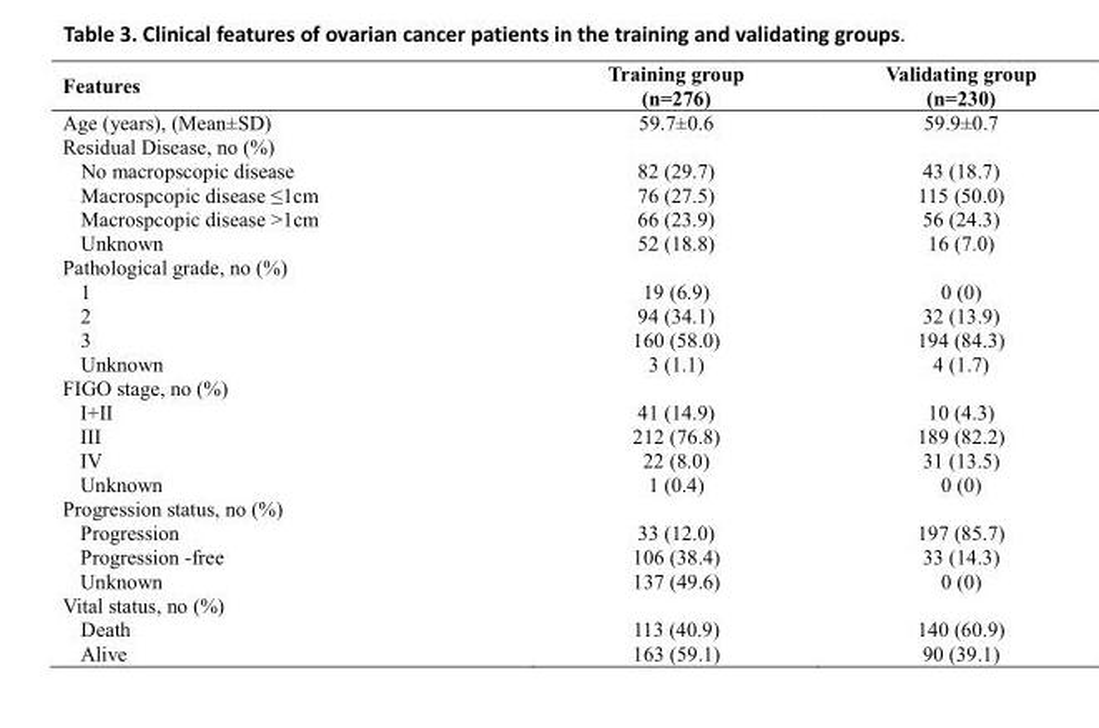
<table><thead><tr><td>Features</td><td>Training group (n=276)</td><td>Validating group (n=230)</td></tr></thead><tbody><tr><td>Age (years), (Mean±SD)</td><td>59.7±0.6</td><td>59.9±0.7</td></tr><tr><td colspan="3">Residual Disease, no (%)</td></tr><tr><td>No macropscopic disease</td><td>82 (29.7)</td><td>43 (18.7)</td></tr><tr><td>Macrospcopic disease ≤1cm</td><td>76 (27.5)</td><td>115 (50.0)</td></tr><tr><td>Macrospcopic disease &gt;1cm</td><td>66 (23.9)</td><td>56 (24.3)</td></tr><tr><td>Unknown</td><td>52 (18.8)</td><td>16 (7.0)</td></tr><tr><td colspan="3">Pathological grade, no (%)</td></tr><tr><td>1</td><td>19 (6.9)</td><td>0 (0)</td></tr><tr><td>2</td><td>94 (34.1)</td><td>32 (13.9)</td></tr><tr><td>3</td><td>160 (58.0)</td><td>194 (84.3)</td></tr><tr><td>Unknown</td><td>3 (1.1)</td><td>4 (1.7)</td></tr><tr><td colspan="3">FIGO stage, no (%)</td></tr><tr><td>I+II</td><td>41 (14.9)</td><td>10 (4.3)</td></tr><tr><td>III</td><td>212 (76.8)</td><td>189 (82.2)</td></tr><tr><td>IV</td><td>22 (8.0)</td><td>31 (13.5)</td></tr><tr><td>Unknown</td><td>1 (0.4)</td><td>0 (0)</td></tr><tr><td colspan="3">Progression status, no (%)</td></tr><tr><td>Progression</td><td>33 (12.0)</td><td>197 (85.7)</td></tr><tr><td>Progression -free</td><td>106 (38.4)</td><td>33 (14.3)</td></tr><tr><td>Unknown</td><td>137 (49.6)</td><td>0 (0)</td></tr><tr><td colspan="3">Vital status, no (%)</td></tr><tr><td>Death</td><td>113 (40.9)</td><td>140 (60.9)</td></tr><tr><td>Alive</td><td>163 (59.1)</td><td>90 (39.1)</td></tr></tbody></table>